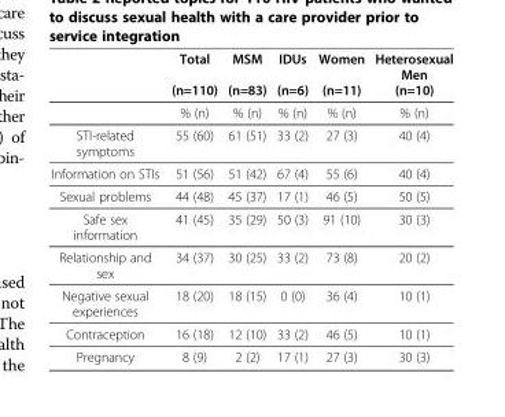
<table><thead><tr><td></td><td>Total (n=110)</td><td>MSM (n=83)</td><td>IDUs (n=6)</td><td>Women (n=11)</td><td>Heterosexual Men (n=10)</td></tr></thead><tbody><tr><td></td><td>% (n)</td><td>% (n)</td><td>% (n)</td><td>% (n)</td><td>% (n)</td></tr><tr><td>STI-related symptoms</td><td>55 (60)</td><td>61 (51)</td><td>33 (2)</td><td>27 (3)</td><td>40 (4)</td></tr><tr><td>Information on STIs</td><td>51 (56)</td><td>51 (42)</td><td>67 (4)</td><td>55 (6)</td><td>40 (4)</td></tr><tr><td>Sexual problems</td><td>44 (48)</td><td>45 (37)</td><td>17 (1)</td><td>46 (5)</td><td>50 (5)</td></tr><tr><td>Safe sex information</td><td>41 (45)</td><td>35 (29)</td><td>50 (3)</td><td>91 (10)</td><td>30 (3)</td></tr><tr><td>Relationship and sex</td><td>34 (37)</td><td>30 (25)</td><td>33 (2)</td><td>73 (8)</td><td>20 (2)</td></tr><tr><td>Negative sexual experiences</td><td>18 (20)</td><td>18 (15)</td><td>0 (0)</td><td>36 (4)</td><td>10 (1)</td></tr><tr><td>Contraception</td><td>16 (18)</td><td>12 (10)</td><td>33 (2)</td><td>46 (5)</td><td>10 (1)</td></tr><tr><td>Pregnancy</td><td>8 (9)</td><td>2 (2)</td><td>17 (1)</td><td>27 (3)</td><td>30 (3)</td></tr></tbody></table>